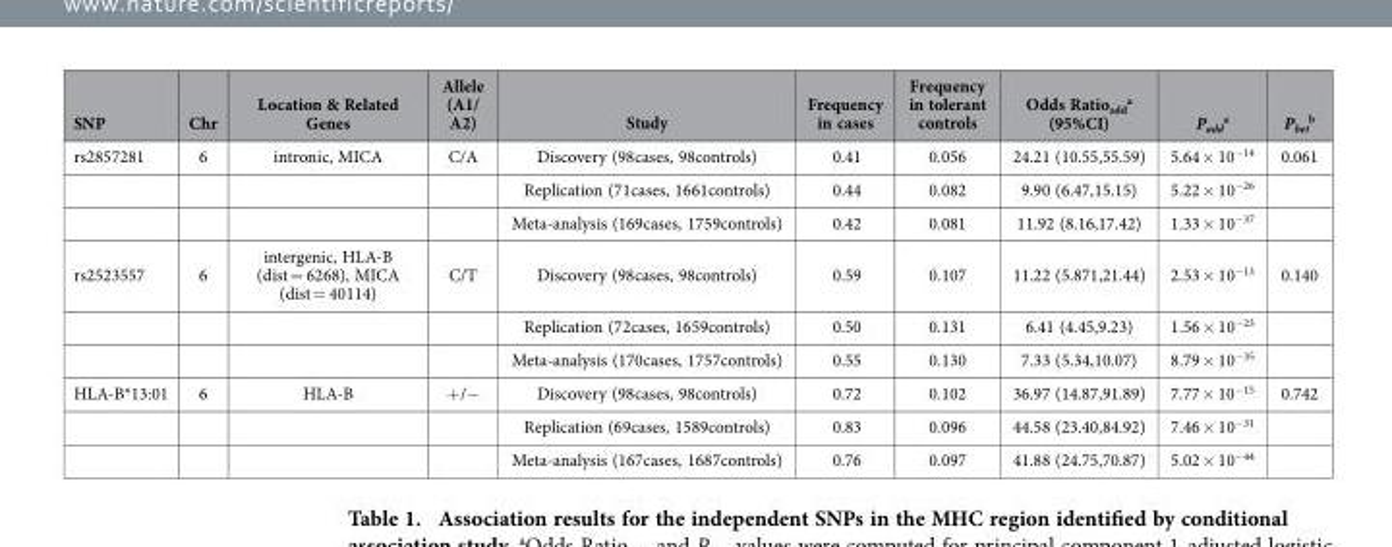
<table><thead><tr><td>SNP</td><td>Chr</td><td>Location &amp; Related Genes</td><td>Allele (A1/ A2)</td><td>Study</td><td>Frequency in cases</td><td>Frequency in tolerant controls</td><td>Odds Ratio<sub>add</sub> <sup>a</sup> (95%CI)</td><td>Padd <sup>a</sup></td><td>P<sub>het</sub> <sup>b</sup></td></tr></thead><tbody><tr><td rowspan="3">rs2857281</td><td>6</td><td>intronic, MICA</td><td>C/A</td><td>Discovery (98cases, 98controls)</td><td>0.41</td><td>0.056</td><td>24.21 (10.55,55.59)</td><td>5.64 × 10<sup>−14</sup></td><td>0.061</td></tr><tr><td></td><td></td><td></td><td>Replication (71cases, 1661controls)</td><td>0.44</td><td>0.082</td><td>9.90 (6.47,15.15)</td><td>5.22 × 10<sup>−26</sup></td><td></td></tr><tr><td></td><td></td><td></td><td>Meta-analysis (169cases, 1759controls)</td><td>0.42</td><td>0.081</td><td>11.92 (8.16,17.42)</td><td>1.33 × 10<sup>−37</sup></td><td></td></tr><tr><td rowspan="3">rs2523557</td><td>6</td><td>intergenic, HLA-B (dist = 6268), MICA (dist = 40114)</td><td>C/T</td><td>Discovery (98cases, 98controls)</td><td>0.59</td><td>0.107</td><td>11.22 (5.871,21.44)</td><td>2.53 × 10<sup>−13</sup></td><td>0.140</td></tr><tr><td></td><td></td><td></td><td>Replication (72cases, 1659controls)</td><td>0.50</td><td>0.131</td><td>6.41 (4.45,9.23)</td><td>1.56 × 10<sup>−23</sup></td><td></td></tr><tr><td></td><td></td><td></td><td>Meta-analysis (170cases, 1757controls)</td><td>0.55</td><td>0.130</td><td>7.33 (5.34,10.07)</td><td>8.79 × 10<sup>−35</sup></td><td></td></tr><tr><td rowspan="3">HLA-B*13:01</td><td>6</td><td>HLA-B</td><td>+ /−</td><td>Discovery (98cases, 98controls)</td><td>0.72</td><td>0.102</td><td>36.97 (14.87,91.89)</td><td>7.77 × 10<sup>−15</sup></td><td>0.742</td></tr><tr><td></td><td></td><td></td><td>Replication (69cases, 1589controls)</td><td>0.83</td><td>0.096</td><td>44.58 (23.40,84.92)</td><td>7.46 × 10<sup>−31</sup></td><td></td></tr><tr><td></td><td></td><td></td><td>Meta-analysis (167cases, 1687controls)</td><td>0.76</td><td>0.097</td><td>41.88 (24.75,70.87)</td><td>5.02 × 10<sup>−44</sup></td><td></td></tr></tbody></table>